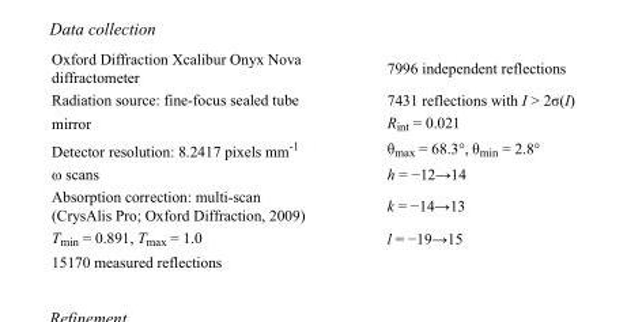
<table><tbody><tr><td>Oxford Diffraction Xcalibur Onyx Nova diffractometer</td><td>7996 independent reflections</td></tr><tr><td>Radiation source: fine-focus sealed tube</td><td>7431 reflections with I &gt; 2σ(I)</td></tr><tr><td>mirror</td><td>R<sub>int</sub> = 0.021</td></tr><tr><td>Detector resolution: 8.2417 pixels mm<sup>-1</sup></td><td>θ<sub>max</sub> = 68.3°, θ<sub>min</sub> = 2.8°</td></tr><tr><td>ω scans</td><td>h = −12→14</td></tr><tr><td>Absorption correction: multi-scan (CrysAlis Pro; Oxford Diffraction, 2009)</td><td>k = −14→13</td></tr><tr><td>T<sub>min</sub> = 0.891, T<sub>max</sub> = 1.0</td><td>l = −19→15</td></tr><tr><td>15170 measured reflections</td><td></td></tr></tbody></table>